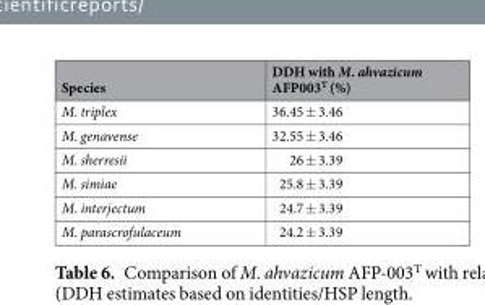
<table><thead><tr><td>Species</td><td>DDH with M. ahvazicum AFP003<sup>T</sup> (%)</td></tr></thead><tbody><tr><td>M. triplex</td><td>36.45 ± 3.46</td></tr><tr><td>M. genavense</td><td>32.55 ± 3.46</td></tr><tr><td>M. sherresii</td><td>26 ± 3.39</td></tr><tr><td>M. simiae</td><td>25.8 ± 3.39</td></tr><tr><td>M. interjectum</td><td>24.7 ± 3.39</td></tr><tr><td>M. parascrofulaceum</td><td>24.2 ± 3.39</td></tr></tbody></table>